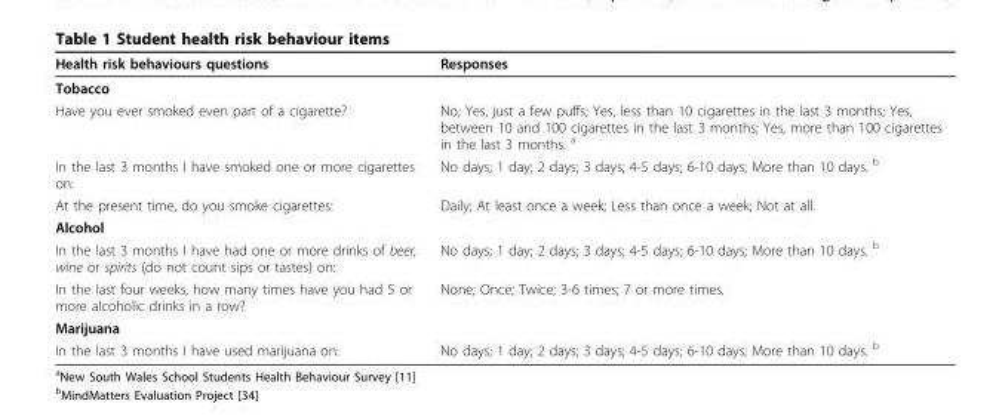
<table><thead><tr><td>Health risk behaviours questions</td><td>Responses</td></tr></thead><tbody><tr><td colspan="2">Tobacco</td></tr><tr><td>Have you ever smoked even part of a cigarette?</td><td>No; Yes, just a few puffs; Yes, less than 10 cigarettes in the last 3 months; Yes, between 10 and 100 cigarettes in the last 3 months; Yes, more than 100 cigarettes in the last 3 months. <sup>a</sup></td></tr><tr><td>In the last 3 months I have smoked one or more cigarettes on:</td><td>No days; 1 day; 2 days; 3 days; 4-5 days; 6-10 days; More than 10 days. <sup>b</sup></td></tr><tr><td>At the present time, do you smoke cigarettes:</td><td>Daily; At least once a week; Less than once a week; Not at all.</td></tr><tr><td colspan="2">Alcohol</td></tr><tr><td>In the last 3 months I have had one or more drinks of beer, wine or spirits (do not count sips or tastes) on:</td><td>No days; 1 day; 2 days; 3 days; 4-5 days; 6-10 days; More than 10 days. <sup>b</sup></td></tr><tr><td>In the last four weeks, how many times have you had 5 or more alcoholic drinks in a row?</td><td>None; Once; Twice; 3-6 times; 7 or more times.</td></tr><tr><td colspan="2">Marijuana</td></tr><tr><td>In the last 3 months I have used marijuana on:</td><td>No days; 1 day; 2 days; 3 days; 4-5 days; 6-10 days; More than 10 days. <sup>b</sup></td></tr></tbody></table>